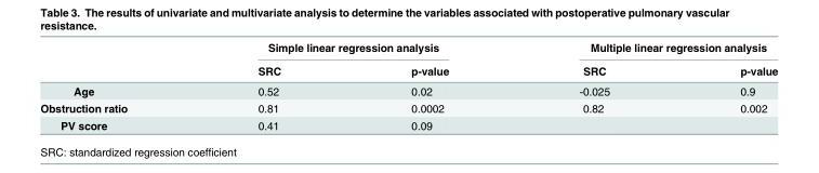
<table><thead><tr><td rowspan="2"></td><td colspan="2">Simple linear regression analysis</td><td colspan="2">Multiple linear regression analysis</td></tr><tr><td>SRC</td><td>p-value</td><td>SRC</td><td>p-value</td></tr></thead><tbody><tr><td>Age</td><td>0.52</td><td>0.02</td><td>-0.025</td><td>0.9</td></tr><tr><td>Obstruction ratio</td><td>0.81</td><td>0.0002</td><td>0.82</td><td>0.002</td></tr><tr><td>PV score</td><td>0.41</td><td>0.09</td><td></td><td></td></tr></tbody></table>